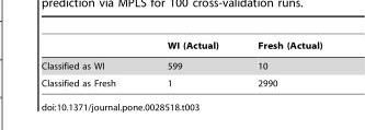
<table><thead><tr><td></td><td>WI (Actual)</td><td>Fresh (Actual)</td></tr></thead><tbody><tr><td>Classified as WI</td><td>599</td><td>10</td></tr><tr><td>Classified as Fresh</td><td>1</td><td>2990</td></tr></tbody></table>